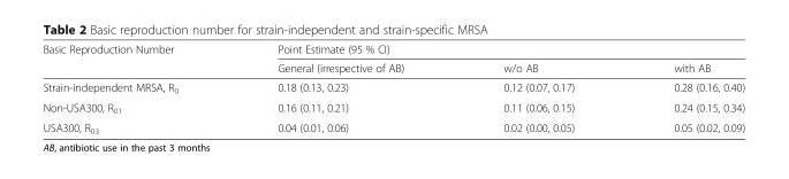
<table><thead><tr><td rowspan="2">Basic Reproduction Number</td><td colspan="3">Point Estimate (95 % CI)</td></tr><tr><td>General (irrespective of AB)</td><td>w/o AB</td><td>with AB</td></tr></thead><tbody><tr><td>Strain-independent MRSA, R<sub>0</sub></td><td>0.18 (0.13, 0.23)</td><td>0.12 (0.07, 0.17)</td><td>0.28 (0.16, 0.40)</td></tr><tr><td>Non-USA300, R<sub>01</sub></td><td>0.16 (0.11, 0.21)</td><td>0.11 (0.06, 0.15)</td><td>0.24 (0.15, 0.34)</td></tr><tr><td>USA300, R<sub>03</sub></td><td>0.04 (0.01, 0.06)</td><td>0.02 (0.00, 0.05)</td><td>0.05 (0.02, 0.09)</td></tr></tbody></table>